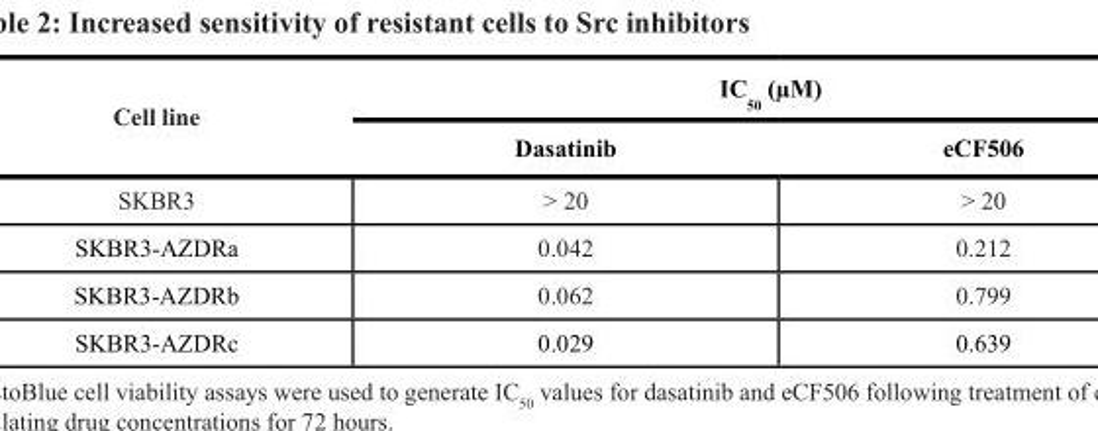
<table><thead><tr><td rowspan="2">Cell line</td><td colspan="2">IC <sub>50</sub> (µM)</td></tr><tr><td>Dasatinib</td><td>eCF506</td></tr></thead><tbody><tr><td>SKBR3</td><td>&gt; 20</td><td>&gt; 20</td></tr><tr><td>SKBR3-AZDRa</td><td>0.042</td><td>0.212</td></tr><tr><td>SKBR3-AZDRb</td><td>0.062</td><td>0.799</td></tr><tr><td>SKBR3-AZDRc</td><td>0.029</td><td>0.639</td></tr></tbody></table>